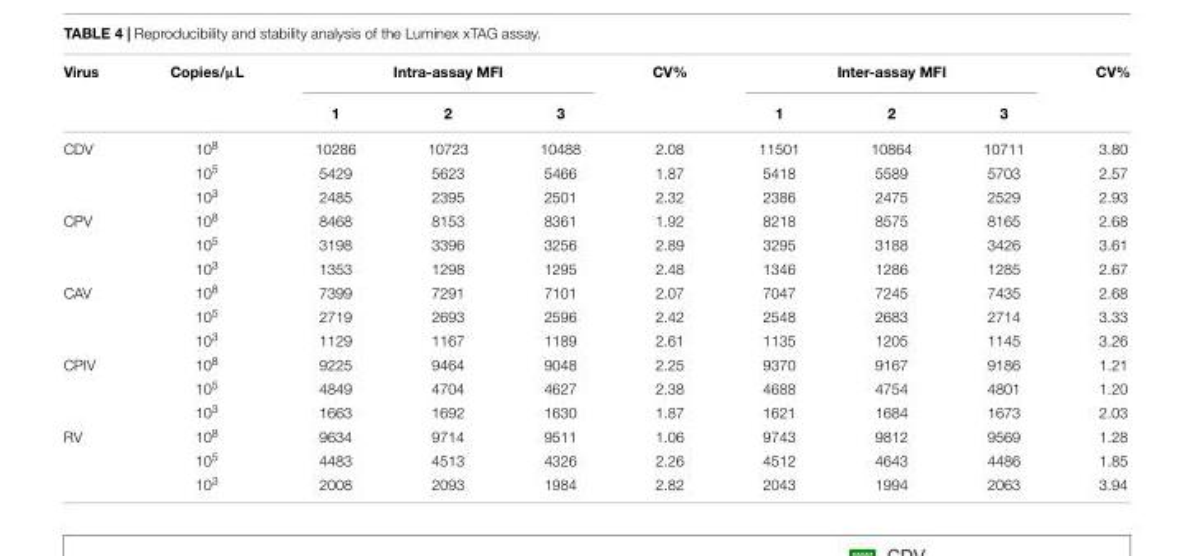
<table><thead><tr><td rowspan="2">Virus</td><td rowspan="2">Copies/µL</td><td colspan="3">Intra-assay MFI</td><td rowspan="2">CV%</td><td colspan="3">Inter-assay MFI</td><td rowspan="2">CV%</td></tr><tr><td>1</td><td>2</td><td>3</td><td>1</td><td>2</td><td>3</td></tr></thead><tbody><tr><td rowspan="3">CDV</td><td>10<sup>8</sup></td><td>10286</td><td>10723</td><td>10488</td><td>2.08</td><td>11501</td><td>10864</td><td>10711</td><td>3.80</td></tr><tr><td>10<sup>5</sup></td><td>5429</td><td>5623</td><td>5466</td><td>1.87</td><td>5418</td><td>5589</td><td>5703</td><td>2.57</td></tr><tr><td>10<sup>3</sup></td><td>2485</td><td>2395</td><td>2501</td><td>2.32</td><td>2386</td><td>2475</td><td>2529</td><td>2.93</td></tr><tr><td rowspan="3">CPV</td><td>10<sup>8</sup></td><td>8468</td><td>8153</td><td>8361</td><td>1.92</td><td>8218</td><td>8575</td><td>8165</td><td>2.68</td></tr><tr><td>10<sup>5</sup></td><td>3198</td><td>3396</td><td>3256</td><td>2.89</td><td>3295</td><td>3188</td><td>3426</td><td>3.61</td></tr><tr><td>10<sup>3</sup></td><td>1353</td><td>1298</td><td>1295</td><td>2.48</td><td>1346</td><td>1286</td><td>1285</td><td>2.67</td></tr><tr><td rowspan="3">CAV</td><td>10<sup>8</sup></td><td>7399</td><td>7291</td><td>7101</td><td>2.07</td><td>7047</td><td>7245</td><td>7435</td><td>2.68</td></tr><tr><td>10<sup>5</sup></td><td>2719</td><td>2693</td><td>2596</td><td>2.42</td><td>2548</td><td>2683</td><td>2714</td><td>3.33</td></tr><tr><td>10<sup>3</sup></td><td>1129</td><td>1167</td><td>1189</td><td>2.61</td><td>1135</td><td>1205</td><td>1145</td><td>3.26</td></tr><tr><td rowspan="3">CPIV</td><td>10<sup>8</sup></td><td>9225</td><td>9464</td><td>9048</td><td>2.25</td><td>9370</td><td>9167</td><td>9186</td><td>1.21</td></tr><tr><td>10<sup>5</sup></td><td>4849</td><td>4704</td><td>4627</td><td>2.38</td><td>4688</td><td>4754</td><td>4801</td><td>1.20</td></tr><tr><td>10<sup>3</sup></td><td>1663</td><td>1692</td><td>1630</td><td>1.87</td><td>1621</td><td>1684</td><td>1673</td><td>2.03</td></tr><tr><td rowspan="3">RV</td><td>10<sup>8</sup></td><td>9634</td><td>9714</td><td>9511</td><td>1.06</td><td>9743</td><td>9812</td><td>9569</td><td>1.28</td></tr><tr><td>10<sup>5</sup></td><td>4483</td><td>4513</td><td>4326</td><td>2.26</td><td>4512</td><td>4643</td><td>4486</td><td>1.85</td></tr><tr><td>10<sup>3</sup></td><td>2008</td><td>2093</td><td>1984</td><td>2.82</td><td>2043</td><td>1994</td><td>2063</td><td>3.94</td></tr></tbody></table>